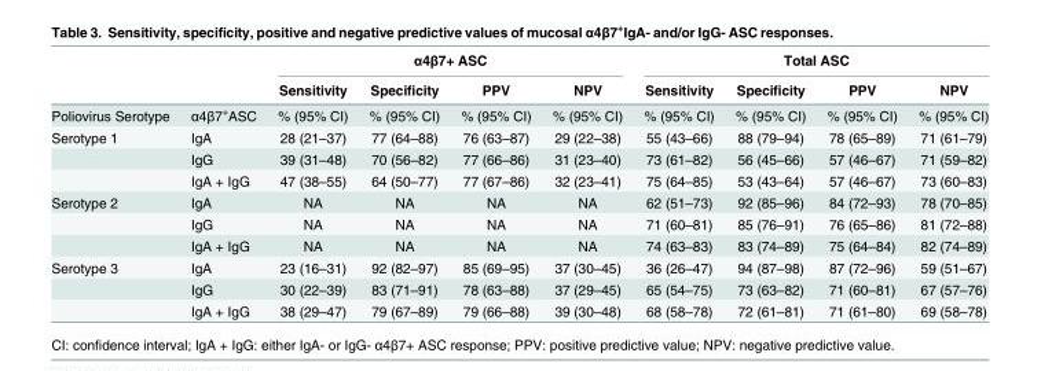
<table><thead><tr><td rowspan="2"></td><td rowspan="2"></td><td colspan="4">α4β7+ ASC</td><td colspan="4">Total ASC</td></tr><tr><td>Sensitivity</td><td>Specificity</td><td>PPV</td><td>NPV</td><td>Sensitivity</td><td>Specificity</td><td>PPV</td><td>NPV</td></tr></thead><tbody><tr><td>Poliovirus Serotype</td><td>α4β7<sup>+</sup>ASC</td><td>% (95% CI)</td><td>% (95% CI)</td><td>% (95% CI)</td><td>% (95% CI)</td><td>% (95% CI)</td><td>% (95% CI)</td><td>% (95% CI)</td><td>% (95% CI)</td></tr><tr><td rowspan="3">Serotype 1</td><td>IgA</td><td>28 (21–37)</td><td>77 (64–88)</td><td>76 (63–87)</td><td>29 (22–38)</td><td>55 (43–66)</td><td>88 (79–94)</td><td>78 (65–89)</td><td>71 (61–79)</td></tr><tr><td>IgG</td><td>39 (31–48)</td><td>70 (56–82)</td><td>77 (66–86)</td><td>31 (23–40)</td><td>73 (61–82)</td><td>56 (45–66)</td><td>57 (46–67)</td><td>71 (59–82)</td></tr><tr><td>IgA + IgG</td><td>47 (38–55)</td><td>64 (50–77)</td><td>77 (67–86)</td><td>32 (23–41)</td><td>75 (64–85)</td><td>53 (43–64)</td><td>57 (46–67)</td><td>73 (60–83)</td></tr><tr><td rowspan="3">Serotype 2</td><td>IgA</td><td>NA</td><td>NA</td><td>NA</td><td>NA</td><td>62 (51–73)</td><td>92 (85–96)</td><td>84 (72–93)</td><td>78 (70–85)</td></tr><tr><td>IgG</td><td>NA</td><td>NA</td><td>NA</td><td>NA</td><td>71 (60–81)</td><td>85 (76–91)</td><td>76 (65–86)</td><td>81 (72–88)</td></tr><tr><td>IgA + IgG</td><td>NA</td><td>NA</td><td>NA</td><td>NA</td><td>74 (63–83)</td><td>83 (74–89)</td><td>75 (64–84)</td><td>82 (74–89)</td></tr><tr><td rowspan="3">Serotype 3</td><td>IgA</td><td>23 (16–31)</td><td>92 (82–97)</td><td>85 (69–95)</td><td>37 (30–45)</td><td>36 (26–47)</td><td>94 (87–98)</td><td>87 (72–96)</td><td>59 (51–67)</td></tr><tr><td>IgG</td><td>30 (22–39)</td><td>83 (71–91)</td><td>78 (63–88)</td><td>37 (29–45)</td><td>65 (54–75)</td><td>73 (63–82)</td><td>71 (60–81)</td><td>67 (57–76)</td></tr><tr><td>IgA + IgG</td><td>38 (29–47)</td><td>79 (67–89)</td><td>79 (66–88)</td><td>39 (30–48)</td><td>68 (58–78)</td><td>72 (61–81)</td><td>71 (61–80)</td><td>69 (58–78)</td></tr></tbody></table>